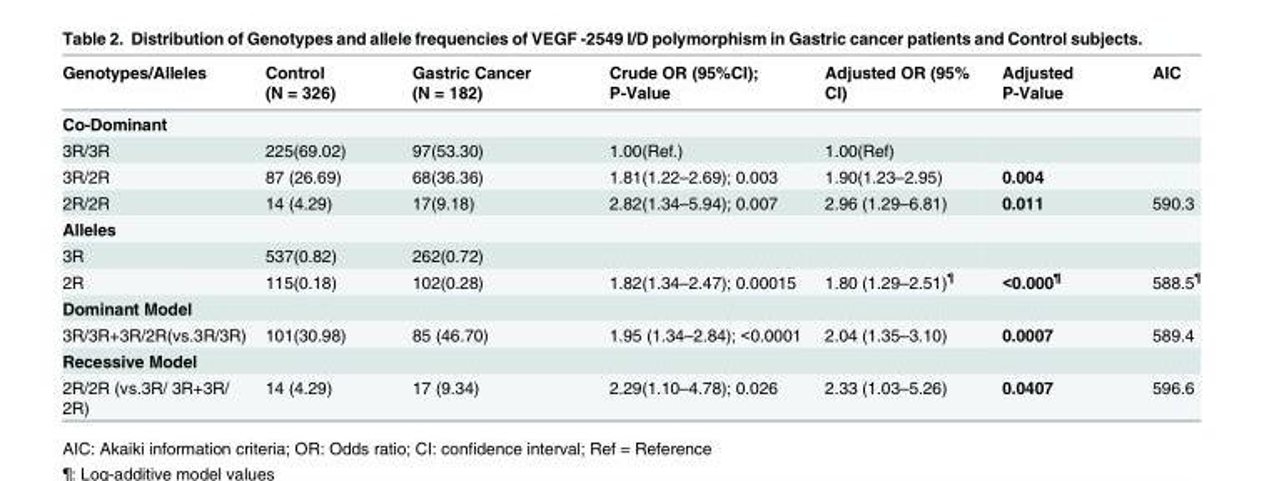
<table><thead><tr><td>Genotypes/Alleles</td><td>Control (N = 326)</td><td>Gastric Cancer (N = 182)</td><td>Crude OR (95%CI); P-Value</td><td>Adjusted OR (95% CI)</td><td>Adjusted P-Value</td><td>AIC</td></tr></thead><tbody><tr><td colspan="7">Co-Dominant</td></tr><tr><td>3R/3R</td><td>225(69.02)</td><td>97(53.30)</td><td>1.00(Ref.)</td><td>1.00(Ref)</td><td></td><td></td></tr><tr><td>3R/2R</td><td>87 (26.69)</td><td>68(36.36)</td><td>1.81(1.22–2.69); 0.003</td><td>1.90(1.23–2.95)</td><td>0.004</td><td></td></tr><tr><td>2R/2R</td><td>14 (4.29)</td><td>17(9.18)</td><td>2.82(1.34–5.94); 0.007</td><td>2.96 (1.29–6.81)</td><td>0.011</td><td>590.3</td></tr><tr><td colspan="7">Alleles</td></tr><tr><td>3R</td><td>537(0.82)</td><td>262(0.72)</td><td></td><td></td><td></td><td></td></tr><tr><td>2R</td><td>115(0.18)</td><td>102(0.28)</td><td>1.82(1.34–2.47); 0.00015</td><td>1.80 (1.29–2.51)<sup>¶</sup></td><td>&lt;0.000<sup>¶</sup></td><td>588.5<sup>¶</sup></td></tr><tr><td colspan="7">Dominant Model</td></tr><tr><td>3R/3R+3R/2R(vs.3R/3R)</td><td>101(30.98)</td><td>85 (46.70)</td><td>1.95 (1.34–2.84); &lt;0.0001</td><td>2.04 (1.35–3.10)</td><td>0.0007</td><td>589.4</td></tr><tr><td colspan="7">Recessive Model</td></tr><tr><td>2R/2R (vs.3R/ 3R+3R/ 2R)</td><td>14 (4.29)</td><td>17 (9.34)</td><td>2.29(1.10–4.78); 0.026</td><td>2.33 (1.03–5.26)</td><td>0.0407</td><td>596.6</td></tr></tbody></table>